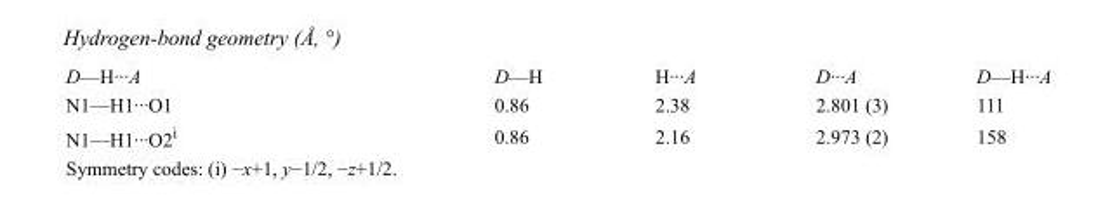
<table><tbody><tr><td>D—H···A</td><td>D—H</td><td>H···A</td><td>D···A</td><td>D—H···A</td></tr><tr><td>N1—H1···O1</td><td>0.86</td><td>2.38</td><td>2.801 (3)</td><td>111</td></tr><tr><td>N1—H1···O2<sup>i</sup></td><td>0.86</td><td>2.16</td><td>2.973 (2)</td><td>158</td></tr></tbody></table>